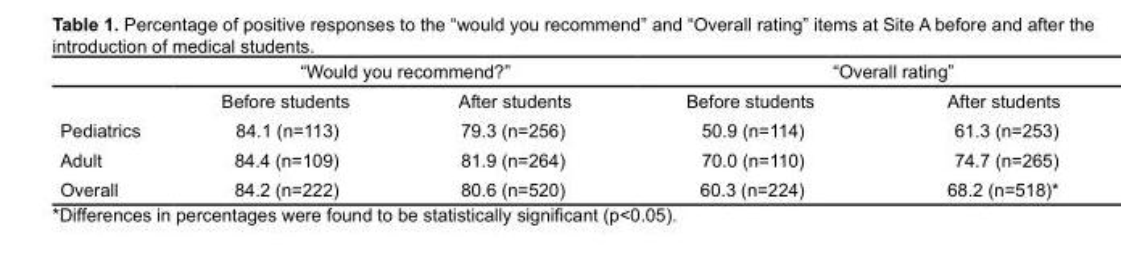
<table><thead><tr><td rowspan="2"></td><td colspan="2">“Would you recommend?”</td><td colspan="2">“Overall rating”</td></tr><tr><td>Before students</td><td>After students</td><td>Before students</td><td>After students</td></tr></thead><tbody><tr><td>Pediatrics</td><td>84.1 (n=113)</td><td>79.3 (n=256)</td><td>50.9 (n=114)</td><td>61.3 (n=253)</td></tr><tr><td>Adult</td><td>84.4 (n=109)</td><td>81.9 (n=264)</td><td>70.0 (n=110)</td><td>74.7 (n=265)</td></tr><tr><td>Overall</td><td>84.2 (n=222)</td><td>80.6 (n=520)</td><td>60.3 (n=224)</td><td>68.2 (n=518)*</td></tr></tbody></table>